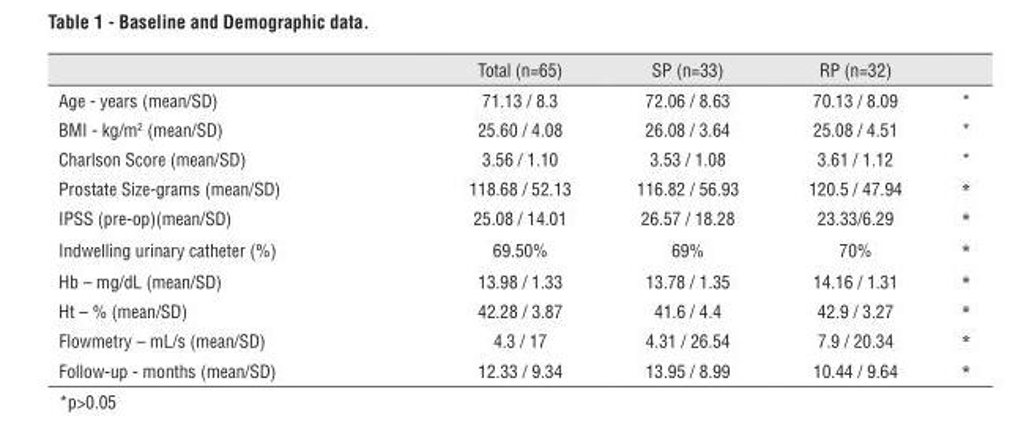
<table><thead><tr><td></td><td>Total (n=65)</td><td>SP (n=33)</td><td>RP (n=32)</td><td></td></tr></thead><tbody><tr><td>Age - years (mean/SD)</td><td>71.13 / 8.3</td><td>72.06 / 8.63</td><td>70.13 / 8.09</td><td>*</td></tr><tr><td>BMI - kg/m<sup>2</sup> (mean/SD)</td><td>25.60 / 4.08</td><td>26.08 / 3.64</td><td>25.08 / 4.51</td><td>*</td></tr><tr><td>Charlson Score (mean/SD)</td><td>3.56 / 1.10</td><td>3.53 / 1.08</td><td>3.61 / 1.12</td><td>*</td></tr><tr><td>Prostate Size-grams (mean/SD)</td><td>118.68 / 52.13</td><td>116.82 / 56.93</td><td>120.5 / 47.94</td><td>*</td></tr><tr><td>IPSS (pre-op)(mean/SD)</td><td>25.08 / 14.01</td><td>26.57 / 18.28</td><td>23.33/6.29</td><td>*</td></tr><tr><td>Indwelling urinary catheter (%)</td><td>69.50%</td><td>69%</td><td>70%</td><td>*</td></tr><tr><td>Hb – mg/dL (mean/SD)</td><td>13.98 / 1.33</td><td>13.78 / 1.35</td><td>14.16 / 1.31</td><td>*</td></tr><tr><td>Ht – % (mean/SD)</td><td>42.28 / 3.87</td><td>41.6 / 4.4</td><td>42.9 / 3.27</td><td>*</td></tr><tr><td>Flowmetry – mL/s (mean/SD)</td><td>4.3 / 17</td><td>4.31 / 26.54</td><td>7.9 / 20.34</td><td>*</td></tr><tr><td>Follow-up - months (mean/SD)</td><td>12.33 / 9.34</td><td>13.95 / 8.99</td><td>10.44 / 9.64</td><td>*</td></tr></tbody></table>